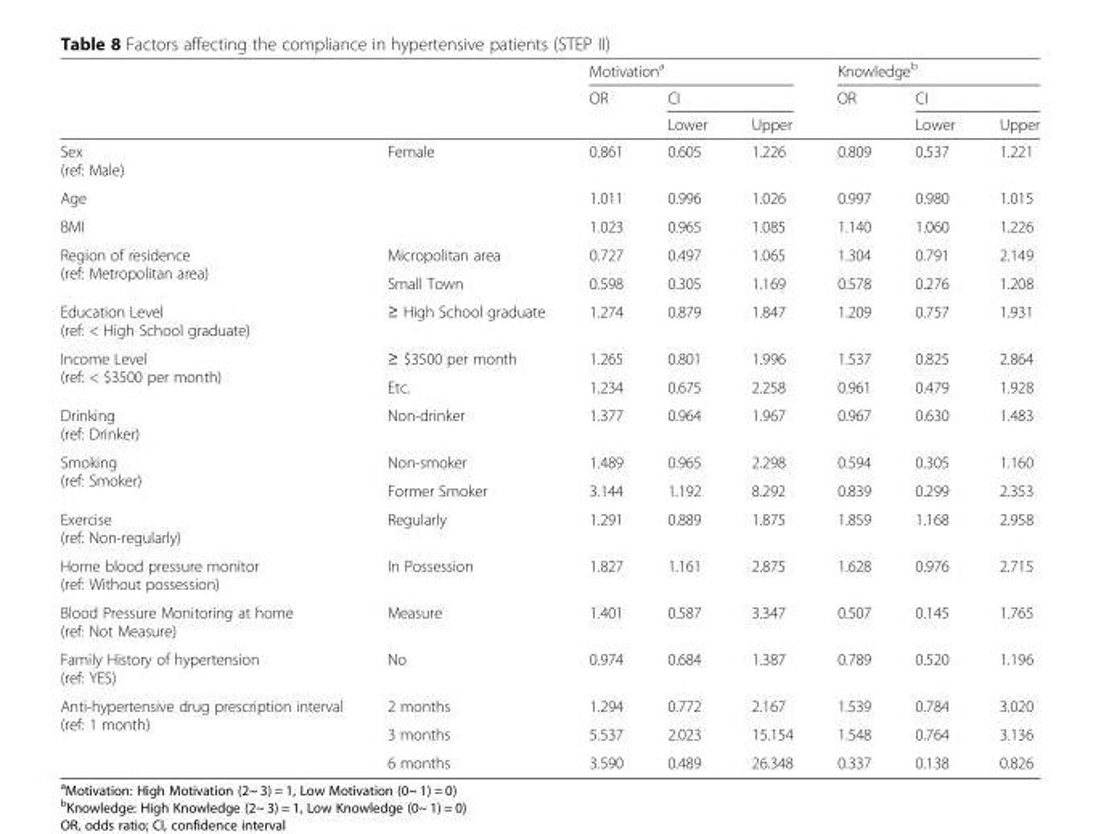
<table><thead><tr><td rowspan="3"></td><td rowspan="3"></td><td colspan="3">Motivation<sup>a</sup></td><td colspan="3">Knowledge<sup>b</sup></td></tr><tr><td rowspan="2">OR</td><td colspan="2">CI</td><td rowspan="2">OR</td><td colspan="2">CI</td></tr><tr><td>Lower</td><td>Upper</td><td>Lower</td><td>Upper</td></tr></thead><tbody><tr><td>Sex (ref: Male)</td><td>Female</td><td>0.861</td><td>0.605</td><td>1.226</td><td>0.809</td><td>0.537</td><td>1.221</td></tr><tr><td>Age</td><td></td><td>1.011</td><td>0.996</td><td>1.026</td><td>0.997</td><td>0.980</td><td>1.015</td></tr><tr><td>BMI</td><td></td><td>1.023</td><td>0.965</td><td>1.085</td><td>1.140</td><td>1.060</td><td>1.226</td></tr><tr><td rowspan="2">Region of residence (ref: Metropolitan area)</td><td>Micropolitan area</td><td>0.727</td><td>0.497</td><td>1.065</td><td>1.304</td><td>0.791</td><td>2.149</td></tr><tr><td>Small Town</td><td>0.598</td><td>0.305</td><td>1.169</td><td>0.578</td><td>0.276</td><td>1.208</td></tr><tr><td>Education Level (ref: &lt; High School graduate)</td><td>≥ High School graduate</td><td>1.274</td><td>0.879</td><td>1.847</td><td>1.209</td><td>0.757</td><td>1.931</td></tr><tr><td rowspan="2">Income Level (ref: &lt; $3500 per month)</td><td>≥ $3500 per month</td><td>1.265</td><td>0.801</td><td>1.996</td><td>1.537</td><td>0.825</td><td>2.864</td></tr><tr><td>Etc.</td><td>1.234</td><td>0.675</td><td>2.258</td><td>0.961</td><td>0.479</td><td>1.928</td></tr><tr><td>Drinking (ref: Drinker)</td><td>Non-drinker</td><td>1.377</td><td>0.964</td><td>1.967</td><td>0.967</td><td>0.630</td><td>1.483</td></tr><tr><td rowspan="2">Smoking (ref: Smoker)</td><td>Non-smoker</td><td>1.489</td><td>0.965</td><td>2.298</td><td>0.594</td><td>0.305</td><td>1.160</td></tr><tr><td>Former Smoker</td><td>3.144</td><td>1.192</td><td>8.292</td><td>0.839</td><td>0.299</td><td>2.353</td></tr><tr><td>Exercise (ref: Non-regularly)</td><td>Regularly</td><td>1.291</td><td>0.889</td><td>1.875</td><td>1.859</td><td>1.168</td><td>2.958</td></tr><tr><td>Home blood pressure monitor (ref: Without possession)</td><td>In Possession</td><td>1.827</td><td>1.161</td><td>2.875</td><td>1.628</td><td>0.976</td><td>2.715</td></tr><tr><td>Blood Pressure Monitoring at home (ref: Not Measure)</td><td>Measure</td><td>1.401</td><td>0.587</td><td>3.347</td><td>0.507</td><td>0.145</td><td>1.765</td></tr><tr><td>Family History of hypertension (ref: YES)</td><td>No</td><td>0.974</td><td>0.684</td><td>1.387</td><td>0.789</td><td>0.520</td><td>1.196</td></tr><tr><td rowspan="3">Anti-hypertensive drug prescription interval (ref: 1 month)</td><td>2 months</td><td>1.294</td><td>0.772</td><td>2.167</td><td>1.539</td><td>0.784</td><td>3.020</td></tr><tr><td>3 months</td><td>5.537</td><td>2.023</td><td>15.154</td><td>1.548</td><td>0.764</td><td>3.136</td></tr><tr><td>6 months</td><td>3.590</td><td>0.489</td><td>26.348</td><td>0.337</td><td>0.138</td><td>0.826</td></tr></tbody></table>